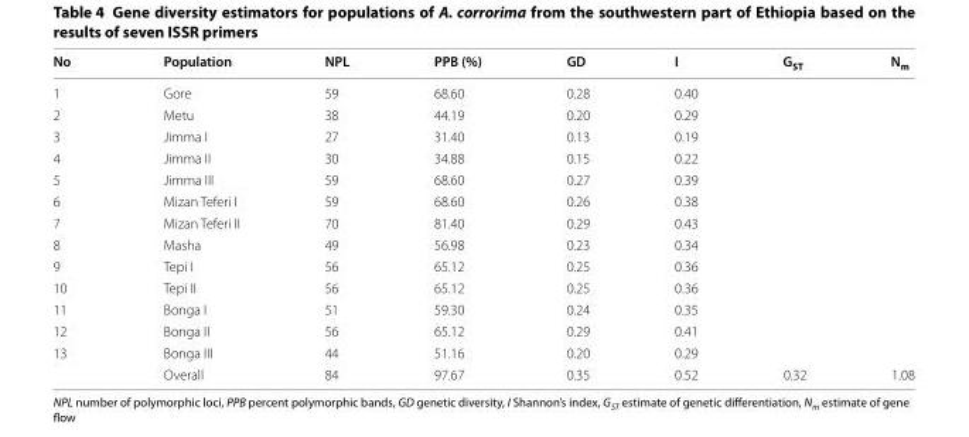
<table><thead><tr><td>No</td><td>Population</td><td>NPL</td><td>PPB (%)</td><td>GD</td><td>I</td><td>G<sub>ST</sub></td><td>N<sub>m</sub></td></tr></thead><tbody><tr><td>1</td><td>Gore</td><td>59</td><td>68.60</td><td>0.28</td><td>0.40</td><td rowspan="13"></td><td rowspan="13"></td></tr><tr><td>2</td><td>Metu</td><td>38</td><td>44.19</td><td>0.20</td><td>0.29</td></tr><tr><td>3</td><td>Jimma I</td><td>27</td><td>31.40</td><td>0.13</td><td>0.19</td></tr><tr><td>4</td><td>Jimma II</td><td>30</td><td>34.88</td><td>0.15</td><td>0.22</td></tr><tr><td>5</td><td>Jimma III</td><td>59</td><td>68.60</td><td>0.27</td><td>0.39</td></tr><tr><td>6</td><td>Mizan Teferi I</td><td>59</td><td>68.60</td><td>0.26</td><td>0.38</td></tr><tr><td>7</td><td>Mizan Teferi II</td><td>70</td><td>81.40</td><td>0.29</td><td>0.43</td></tr><tr><td>8</td><td>Masha</td><td>49</td><td>56.98</td><td>0.23</td><td>0.34</td></tr><tr><td>9</td><td>Tepi I</td><td>56</td><td>65.12</td><td>0.25</td><td>0.36</td></tr><tr><td>10</td><td>Tepi II</td><td>56</td><td>65.12</td><td>0.25</td><td>0.36</td></tr><tr><td>11</td><td>Bonga I</td><td>51</td><td>59.30</td><td>0.24</td><td>0.35</td></tr><tr><td>12</td><td>Bonga II</td><td>56</td><td>65.12</td><td>0.29</td><td>0.41</td></tr><tr><td rowspan="2">13</td><td>Bonga III</td><td>44</td><td>51.16</td><td>0.20</td><td>0.29</td></tr><tr><td>Overall</td><td>84</td><td>97.67</td><td>0.35</td><td>0.52</td><td>0.32</td><td>1.08</td></tr></tbody></table>